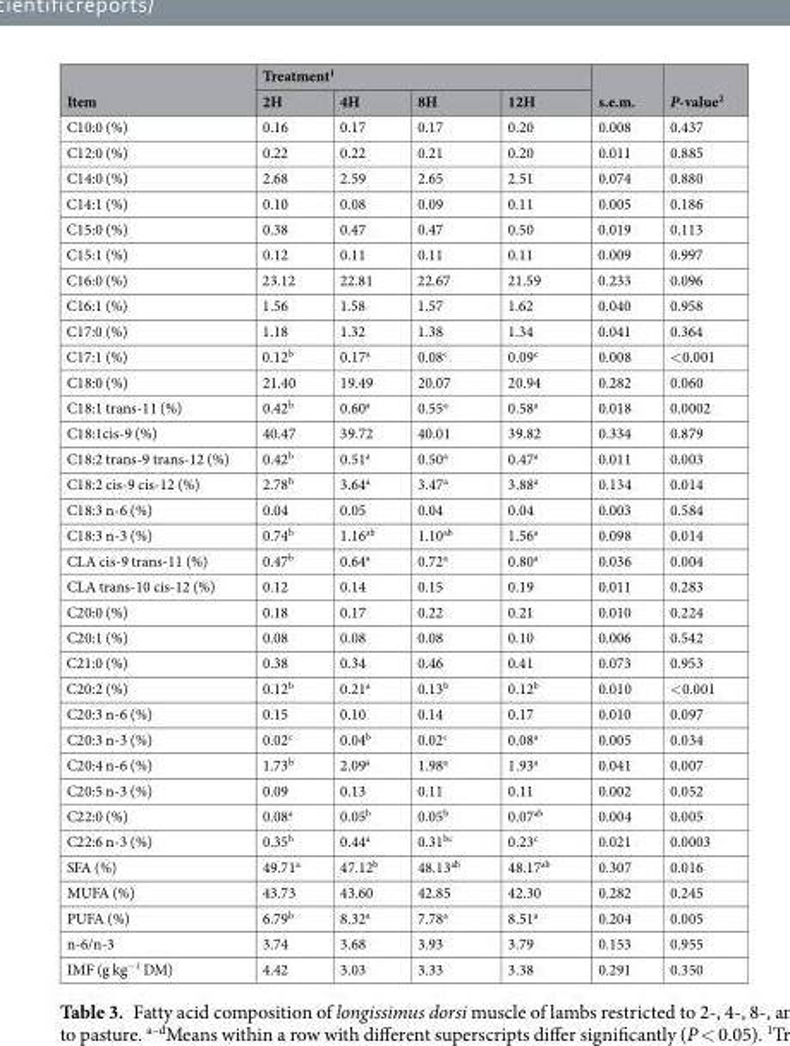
<table><thead><tr><td rowspan="2">Item</td><td colspan="4">Treatment<sup>1</sup></td><td rowspan="2">s.e.m.</td><td rowspan="2">P-value<sup>2</sup></td></tr><tr><td>2H</td><td>4H</td><td>8H</td><td>12H</td></tr></thead><tbody><tr><td>C10:0 (%)</td><td>0.16</td><td>0.17</td><td>0.17</td><td>0.20</td><td>0.008</td><td>0.437</td></tr><tr><td>C12:0 (%)</td><td>0.22</td><td>0.22</td><td>0.21</td><td>0.20</td><td>0.011</td><td>0.885</td></tr><tr><td>C14:0 (%)</td><td>2.68</td><td>2.59</td><td>2.65</td><td>2.51</td><td>0.074</td><td>0.880</td></tr><tr><td>C14:1 (%)</td><td>0.10</td><td>0.08</td><td>0.09</td><td>0.11</td><td>0.005</td><td>0.186</td></tr><tr><td>C15:0 (%)</td><td>0.38</td><td>0.47</td><td>0.47</td><td>0.50</td><td>0.019</td><td>0.113</td></tr><tr><td>C15:1 (%)</td><td>0.12</td><td>0.11</td><td>0.11</td><td>0.11</td><td>0.009</td><td>0.997</td></tr><tr><td>C16:0 (%)</td><td>23.12</td><td>22.81</td><td>22.67</td><td>21.59</td><td>0.233</td><td>0.096</td></tr><tr><td>C16:1 (%)</td><td>1.56</td><td>1.58</td><td>1.57</td><td>1.62</td><td>0.040</td><td>0.958</td></tr><tr><td>C17:0 (%)</td><td>1.18</td><td>1.32</td><td>1.38</td><td>1.34</td><td>0.041</td><td>0.364</td></tr><tr><td>C17:1 (%)</td><td>0.12<sup>b</sup></td><td>0.17<sup>a</sup></td><td>0.08<sup>c</sup></td><td>0.09<sup>c</sup></td><td>0.008</td><td>&lt;0.001</td></tr><tr><td>C18:0 (%)</td><td>21.40</td><td>19.49</td><td>20.07</td><td>20.94</td><td>0.282</td><td>0.060</td></tr><tr><td>C18:1 trans-11 (%)</td><td>0.42<sup>b</sup></td><td>0.60<sup>a</sup></td><td>0.55<sup>a</sup></td><td>0.58<sup>a</sup></td><td>0.018</td><td>0.0002</td></tr><tr><td>C18:1cis-9 (%)</td><td>40.47</td><td>39.72</td><td>40.01</td><td>39.82</td><td>0.334</td><td>0.879</td></tr><tr><td>C18:2 trans-9 trans-12 (%)</td><td>0.42<sup>b</sup></td><td>0.51<sup>a</sup></td><td>0.50<sup>a</sup></td><td>0.47<sup>a</sup></td><td>0.011</td><td>0.003</td></tr><tr><td>C18:2 cis-9 cis-12 (%)</td><td>2.78<sup>b</sup></td><td>3.64<sup>a</sup></td><td>3.47<sup>a</sup></td><td>3.88<sup>a</sup></td><td>0.134</td><td>0.014</td></tr><tr><td>C18:3 n-6 (%)</td><td>0.04</td><td>0.05</td><td>0.04</td><td>0.04</td><td>0.003</td><td>0.584</td></tr><tr><td>C18:3 n-3 (%)</td><td>0.74<sup>b</sup></td><td>1.16<sup>ab</sup></td><td>1.10<sup>ab</sup></td><td>1.56<sup>a</sup></td><td>0.098</td><td>0.014</td></tr><tr><td>CLA cis-9 trans-11 (%)</td><td>0.47<sup>b</sup></td><td>0.64<sup>a</sup></td><td>0.72<sup>a</sup></td><td>0.80<sup>a</sup></td><td>0.036</td><td>0.004</td></tr><tr><td>CLA trans-10 cis-12 (%)</td><td>0.12</td><td>0.14</td><td>0.15</td><td>0.19</td><td>0.011</td><td>0.283</td></tr><tr><td>C20:0 (%)</td><td>0.18</td><td>0.17</td><td>0.22</td><td>0.21</td><td>0.010</td><td>0.224</td></tr><tr><td>C20:1 (%)</td><td>0.08</td><td>0.08</td><td>0.08</td><td>0.10</td><td>0.006</td><td>0.542</td></tr><tr><td>C21:0 (%)</td><td>0.38</td><td>0.34</td><td>0.46</td><td>0.41</td><td>0.073</td><td>0.953</td></tr><tr><td>C20:2 (%)</td><td>0.12<sup>b</sup></td><td>0.21<sup>a</sup></td><td>0.13<sup>b</sup></td><td>0.12<sup>b</sup></td><td>0.010</td><td>&lt;0.001</td></tr><tr><td>C20:3 n-6 (%)</td><td>0.15</td><td>0.10</td><td>0.14</td><td>0.17</td><td>0.010</td><td>0.097</td></tr><tr><td>C20:3 n-3 (%)</td><td>0.02<sup>c</sup></td><td>0.04<sup>b</sup></td><td>0.02<sup>c</sup></td><td>0.08<sup>a</sup></td><td>0.005</td><td>0.034</td></tr><tr><td>C20:4 n-6 (%)</td><td>1.73<sup>b</sup></td><td>2.09<sup>a</sup></td><td>1.98<sup>a</sup></td><td>1.93<sup>a</sup></td><td>0.041</td><td>0.007</td></tr><tr><td>C20:5 n-3 (%)</td><td>0.09</td><td>0.13</td><td>0.11</td><td>0.11</td><td>0.002</td><td>0.052</td></tr><tr><td>C22:0 (%)</td><td>0.08<sup>a</sup></td><td>0.05<sup>b</sup></td><td>0.05<sup>b</sup></td><td>0.07<sup>ab</sup></td><td>0.004</td><td>0.005</td></tr><tr><td>C22:6 n-3 (%)</td><td>0.35<sup>b</sup></td><td>0.44<sup>a</sup></td><td>0.31<sup>bc</sup></td><td>0.23<sup>c</sup></td><td>0.021</td><td>0.0003</td></tr><tr><td>SFA (%)</td><td>49.71<sup>a</sup></td><td>47.12<sup>b</sup></td><td>48.13<sup>ab</sup></td><td>48.17<sup>ab</sup></td><td>0.307</td><td>0.016</td></tr><tr><td>MUFA (%)</td><td>43.73</td><td>43.60</td><td>42.85</td><td>42.30</td><td>0.282</td><td>0.245</td></tr><tr><td>PUFA (%)</td><td>6.79<sup>b</sup></td><td>8.32<sup>a</sup></td><td>7.78<sup>a</sup></td><td>8.51<sup>a</sup></td><td>0.204</td><td>0.005</td></tr><tr><td>n-6/n-3</td><td>3.74</td><td>3.68</td><td>3.93</td><td>3.79</td><td>0.153</td><td>0.955</td></tr><tr><td>IMF (g kg<sup>−1</sup> DM)</td><td>4.42</td><td>3.03</td><td>3.33</td><td>3.38</td><td>0.291</td><td>0.350</td></tr></tbody></table>